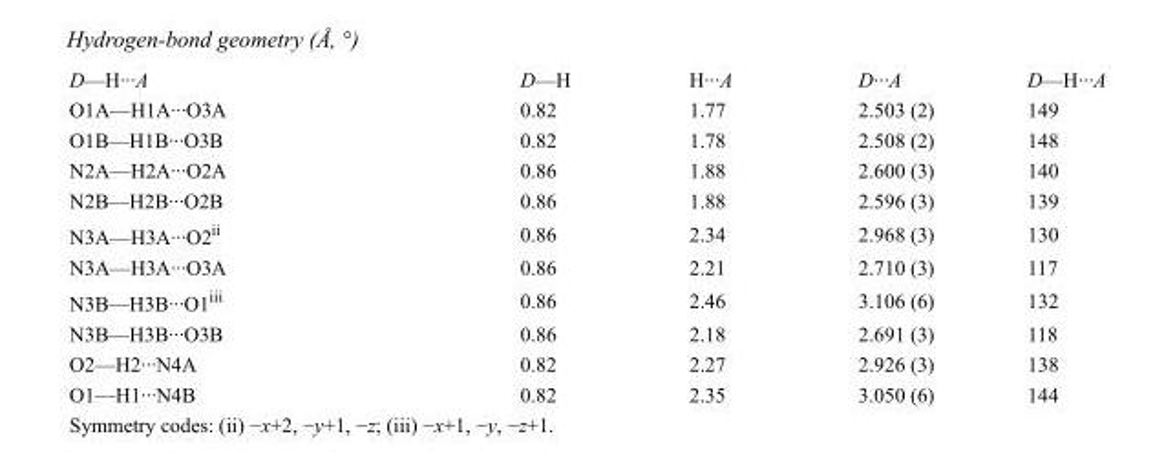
<table><tbody><tr><td>D—H···A</td><td>D—H</td><td>H···A</td><td>D···A</td><td>D—H···A</td></tr><tr><td>O1A—H1A···O3A</td><td>0.82</td><td>1.77</td><td>2.503 (2)</td><td>149</td></tr><tr><td>O1B—H1B···O3B</td><td>0.82</td><td>1.78</td><td>2.508 (2)</td><td>148</td></tr><tr><td>N2A—H2A···O2A</td><td>0.86</td><td>1.88</td><td>2.600 (3)</td><td>140</td></tr><tr><td>N2B—H2B···O2B</td><td>0.86</td><td>1.88</td><td>2.596 (3)</td><td>139</td></tr><tr><td>N3A—H3A···O2<sup>ii</sup></td><td>0.86</td><td>2.34</td><td>2.968 (3)</td><td>130</td></tr><tr><td>N3A—H3A···O3A</td><td>0.86</td><td>2.21</td><td>2.710 (3)</td><td>117</td></tr><tr><td>N3B—H3B···O1<sup>iii</sup></td><td>0.86</td><td>2.46</td><td>3.106 (6)</td><td>132</td></tr><tr><td>N3B—H3B···O3B</td><td>0.86</td><td>2.18</td><td>2.691 (3)</td><td>118</td></tr><tr><td>O2—H2···N4A</td><td>0.82</td><td>2.27</td><td>2.926 (3)</td><td>138</td></tr><tr><td>O1—H1···N4B</td><td>0.82</td><td>2.35</td><td>3.050 (6)</td><td>144</td></tr></tbody></table>